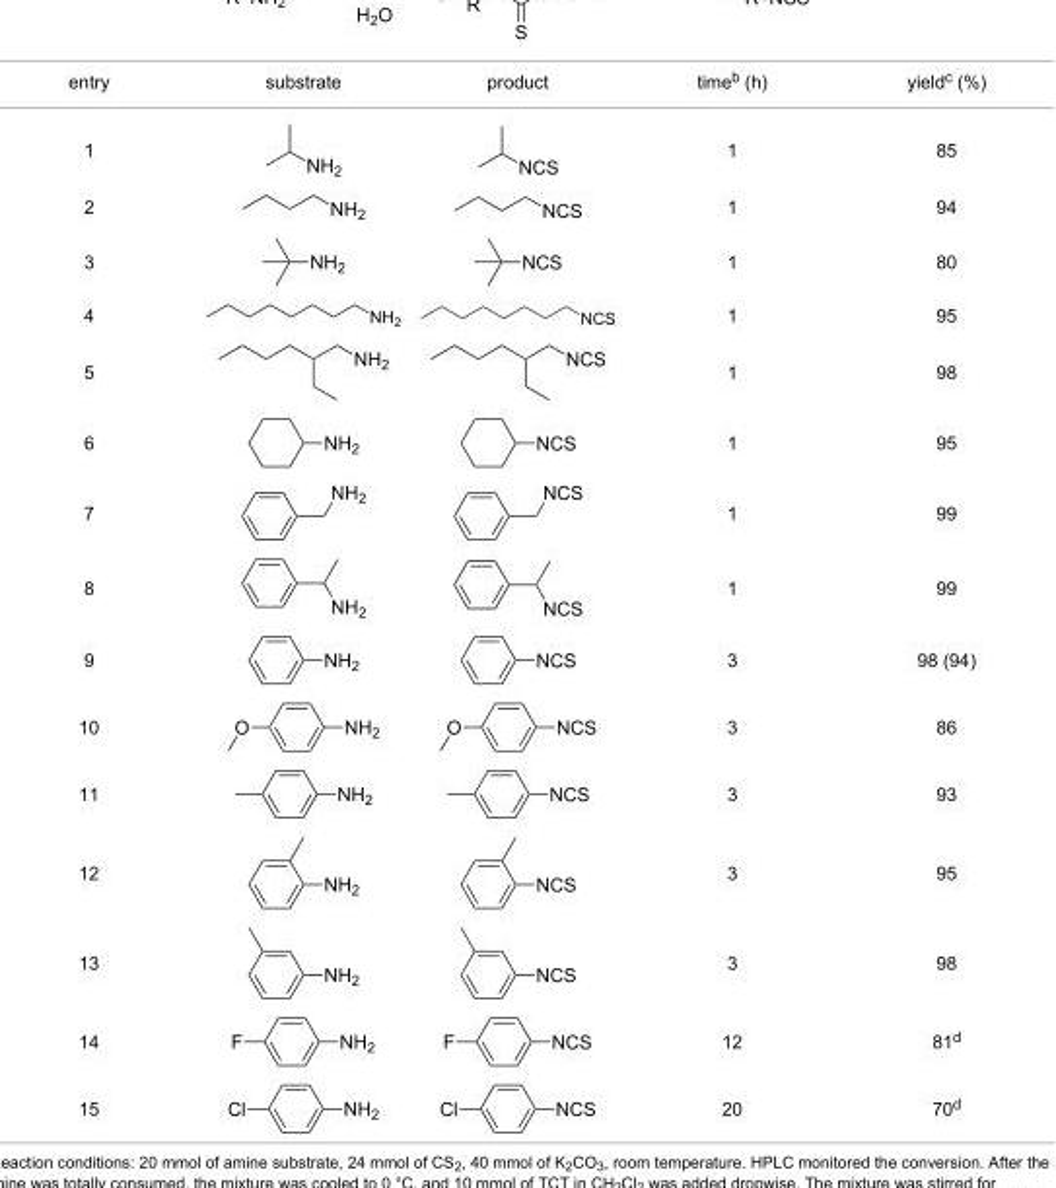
<table><tbody><tr><td>entry</td><td>substrate</td><td>product</td><td>time<sup>b</sup> (h)</td><td>yield<sup>c</sup> (%)</td></tr><tr><td>1</td><td></td><td></td><td>1</td><td>85</td></tr><tr><td>2</td><td></td><td></td><td>1</td><td>94</td></tr><tr><td>3</td><td></td><td></td><td>1</td><td>80</td></tr><tr><td>4</td><td></td><td></td><td>1</td><td>95</td></tr><tr><td>5</td><td></td><td></td><td>1</td><td>98</td></tr><tr><td>6</td><td></td><td></td><td>1</td><td>95</td></tr><tr><td>7</td><td></td><td></td><td>1</td><td>99</td></tr><tr><td>8</td><td></td><td></td><td>1</td><td>99</td></tr><tr><td>9</td><td></td><td></td><td>3</td><td>98 (94)</td></tr><tr><td>10</td><td></td><td></td><td>3</td><td>86</td></tr><tr><td>11</td><td></td><td></td><td>3</td><td>93</td></tr><tr><td>12</td><td></td><td></td><td>3</td><td>95</td></tr><tr><td>13</td><td></td><td></td><td>3</td><td>98</td></tr><tr><td>14</td><td></td><td></td><td>12</td><td>81<sup>d</sup></td></tr><tr><td>15</td><td></td><td></td><td>20</td><td>70<sup>d</sup></td></tr></tbody></table>